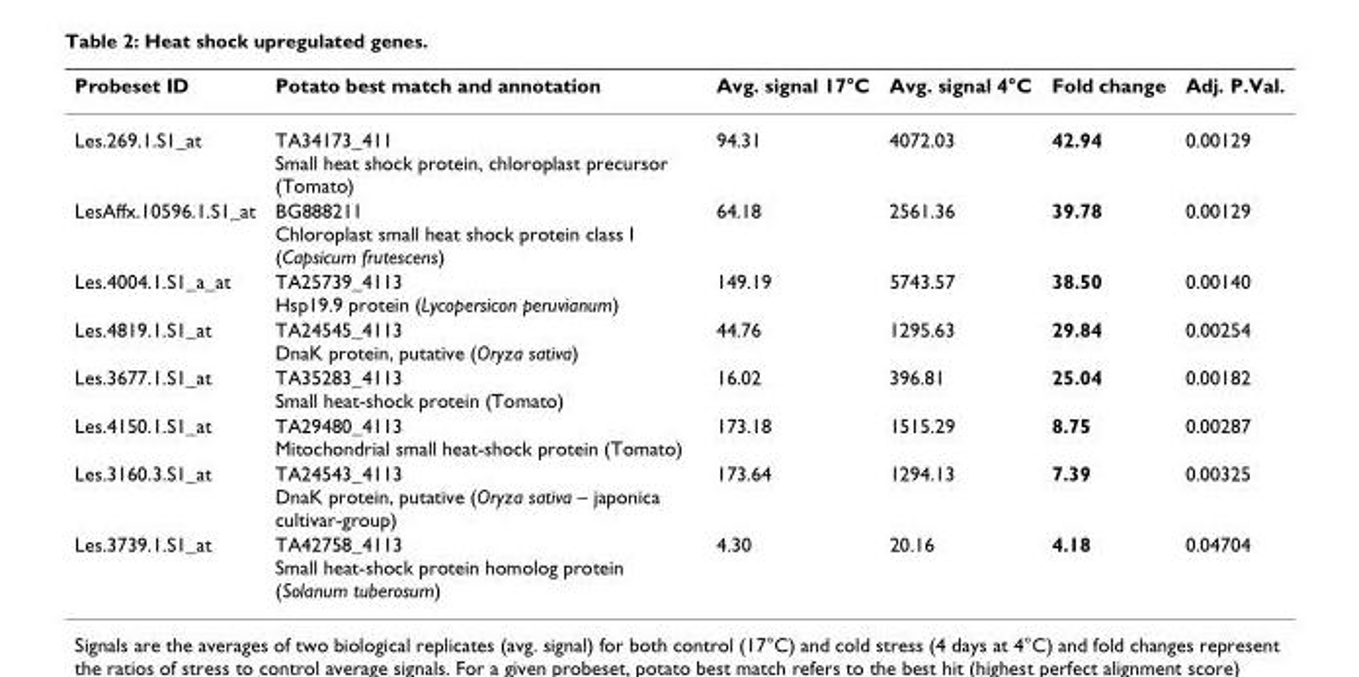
<table><thead><tr><td>Probeset ID</td><td>Potato best match and annotation</td><td>Avg. signal 17°C</td><td>Avg. signal 4°C</td><td>Fold change</td><td>Adj. P.Val.</td></tr></thead><tbody><tr><td>Les.269.1.S1_at</td><td>TA34173_411 Small heat shock protein, chloroplast precursor (Tomato)</td><td>94.31</td><td>4072.03</td><td>42.94</td><td>0.00129</td></tr><tr><td>LesAffx.10596.1.S1_at</td><td>BG888211 Chloroplast small heat shock protein class I (Capsicum frutescens)</td><td>64.18</td><td>2561.36</td><td>39.78</td><td>0.00129</td></tr><tr><td>Les.4004.1.S1_a_at</td><td>TA25739_4113 Hsp19.9 protein (Lycopersicon peruvianum)</td><td>149.19</td><td>5743.57</td><td>38.50</td><td>0.00140</td></tr><tr><td>Les.4819.1.S1_at</td><td>TA24545_4113 DnaK protein, putative (Oryza sativa)</td><td>44.76</td><td>1295.63</td><td>29.84</td><td>0.00254</td></tr><tr><td>Les.3677.1.S1_at</td><td>TA35283_4113 Small heat-shock protein (Tomato)</td><td>16.02</td><td>396.81</td><td>25.04</td><td>0.00182</td></tr><tr><td>Les.4150.1.S1_at</td><td>TA29480_4113 Mitochondrial small heat-shock protein (Tomato)</td><td>173.18</td><td>1515.29</td><td>8.75</td><td>0.00287</td></tr><tr><td>Les.3160.3.S1_at</td><td>TA24543_4113 DnaK protein, putative (Oryza sativa – japonica cultivar-group)</td><td>173.64</td><td>1294.13</td><td>7.39</td><td>0.00325</td></tr><tr><td>Les.3739.1.S1_at</td><td>TA42758_4113 Small heat-shock protein homolog protein (Solanum tuberosum)</td><td>4.30</td><td>20.16</td><td>4.18</td><td>0.04704</td></tr></tbody></table>